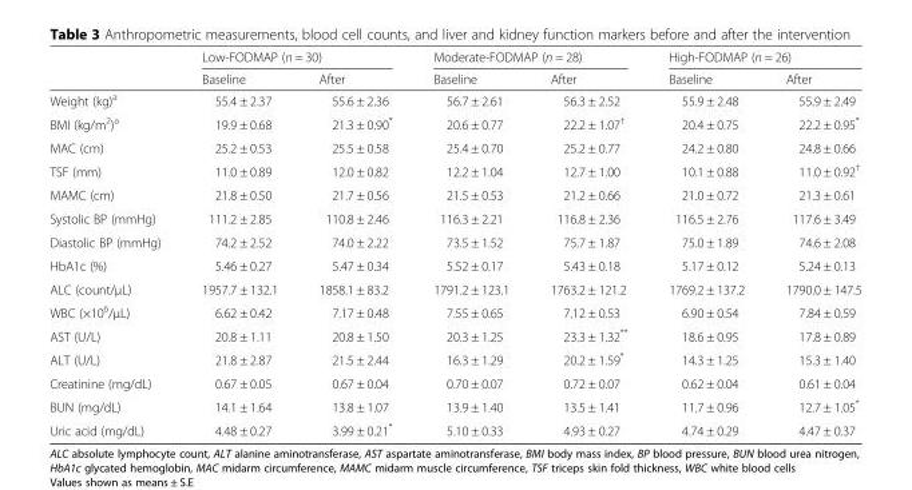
<table><thead><tr><td rowspan="2"></td><td colspan="2">Low-FODMAP (n = 30)</td><td colspan="2">Moderate-FODMAP (n = 28)</td><td colspan="2">High-FODMAP (n = 26)</td></tr><tr><td>Baseline</td><td>After</td><td>Baseline</td><td>After</td><td>Baseline</td><td>After</td></tr></thead><tbody><tr><td>Weight (kg)<sup>a</sup></td><td>55.4 ± 2.37</td><td>55.6 ± 2.36</td><td>56.7 ± 2.61</td><td>56.3 ± 2.52</td><td>55.9 ± 2.48</td><td>55.9 ± 2.49</td></tr><tr><td>BMI (kg/m<sup>2</sup>)<sup>a</sup></td><td>19.9 ± 0.68</td><td>21.3 ± 0.90*</td><td>20.6 ± 0.77</td><td>22.2 ± 1.07<sup>†</sup></td><td>20.4 ± 0.75</td><td>22.2 ± 0.95*</td></tr><tr><td>MAC (cm)</td><td>25.2 ± 0.53</td><td>25.5 ± 0.58</td><td>25.4 ± 0.70</td><td>25.2 ± 0.77</td><td>24.2 ± 0.80</td><td>24.8 ± 0.66</td></tr><tr><td>TSF (mm)</td><td>11.0 ± 0.89</td><td>12.0 ± 0.82</td><td>12.2 ± 1.04</td><td>12.7 ± 1.00</td><td>10.1 ± 0.88</td><td>11.0 ± 0.92<sup>†</sup></td></tr><tr><td>MAMC (cm)</td><td>21.8 ± 0.50</td><td>21.7 ± 0.56</td><td>21.5 ± 0.53</td><td>21.2 ± 0.66</td><td>21.0 ± 0.72</td><td>21.3 ± 0.61</td></tr><tr><td>Systolic BP (mmHg)</td><td>111.2 ± 2.85</td><td>110.8 ± 2.46</td><td>116.3 ± 2.21</td><td>116.8 ± 2.36</td><td>116.5 ± 2.76</td><td>117.6 ± 3.49</td></tr><tr><td>Diastolic BP (mmHg)</td><td>74.2 ± 2.52</td><td>74.0 ± 2.22</td><td>73.5 ± 1.52</td><td>75.7 ± 1.87</td><td>75.0 ± 1.89</td><td>74.6 ± 2.08</td></tr><tr><td>HbA1c (%)</td><td>5.46 ± 0.27</td><td>5.47 ± 0.34</td><td>5.52 ± 0.17</td><td>5.43 ± 0.18</td><td>5.17 ± 0.12</td><td>5.24 ± 0.13</td></tr><tr><td>ALC (count/μL)</td><td>1957.7 ± 132.1</td><td>1858.1 ± 83.2</td><td>1791.2 ± 123.1</td><td>1763.2 ± 121.2</td><td>1769.2 ± 137.2</td><td>1790.0 ± 147.5</td></tr><tr><td>WBC (×10<sup>6</sup>/μL)</td><td>6.62 ± 0.42</td><td>7.17 ± 0.48</td><td>7.55 ± 0.65</td><td>7.12 ± 0.53</td><td>6.90 ± 0.54</td><td>7.84 ± 0.59</td></tr><tr><td>AST (U/L)</td><td>20.8 ± 1.11</td><td>20.8 ± 1.50</td><td>20.3 ± 1.25</td><td>23.3 ± 1.32**</td><td>18.6 ± 0.95</td><td>17.8 ± 0.89</td></tr><tr><td>ALT (U/L)</td><td>21.8 ± 2.87</td><td>21.5 ± 2.44</td><td>16.3 ± 1.29</td><td>20.2 ± 1.59*</td><td>14.3 ± 1.25</td><td>15.3 ± 1.40</td></tr><tr><td>Creatinine (mg/dL)</td><td>0.67 ± 0.05</td><td>0.67 ± 0.04</td><td>0.70 ± 0.07</td><td>0.72 ± 0.07</td><td>0.62 ± 0.04</td><td>0.61 ± 0.04</td></tr><tr><td>BUN (mg/dL)</td><td>14.1 ± 1.64</td><td>13.8 ± 1.07</td><td>13.9 ± 1.40</td><td>13.5 ± 1.41</td><td>11.7 ± 0.96</td><td>12.7 ± 1.05*</td></tr><tr><td>Uric acid (mg/dL)</td><td>4.48 ± 0.27</td><td>3.99 ± 0.21*</td><td>5.10 ± 0.33</td><td>4.93 ± 0.27</td><td>4.74 ± 0.29</td><td>4.47 ± 0.37</td></tr></tbody></table>